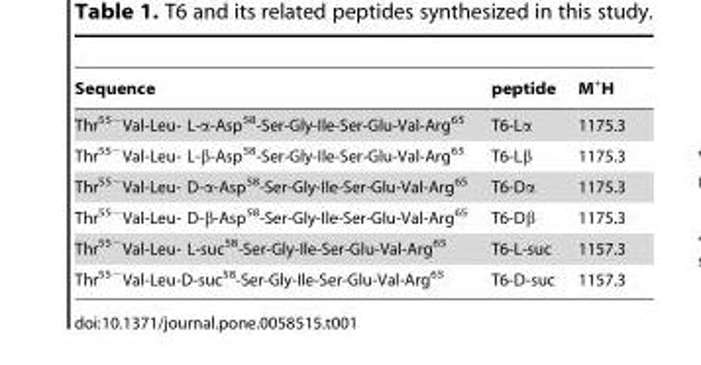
<table><thead><tr><td>Sequence</td><td>peptide</td><td>M<sup>+</sup>H</td></tr></thead><tbody><tr><td>Thr<sup>55−</sup>Val-Leu- L-α-Asp<sup>58</sup>-Ser-Gly-Ile-Ser-Glu-Val-Arg<sup>65</sup></td><td>T6-Lα</td><td>1175.3</td></tr><tr><td>Thr<sup>55−</sup>Val-Leu- L-β-Asp<sup>58</sup>-Ser-Gly-Ile-Ser-Glu-Val-Arg<sup>65</sup></td><td>T6-Lβ</td><td>1175.3</td></tr><tr><td>Thr<sup>55−</sup>Val-Leu- D-α-Asp<sup>58</sup>-Ser-Gly-Ile-Ser-Glu-Val-Arg<sup>65</sup></td><td>T6-Dα</td><td>1175.3</td></tr><tr><td>Thr<sup>55−</sup>Val-Leu- D-β-Asp<sup>58</sup>-Ser-Gly-Ile-Ser-Glu-Val-Arg<sup>65</sup></td><td>T6-Dβ</td><td>1175.3</td></tr><tr><td>Thr<sup>55−</sup>Val-Leu- L-suc<sup>58</sup>-Ser-Gly-Ile-Ser-Glu-Val-Arg<sup>65</sup></td><td>T6-L-suc</td><td>1157.3</td></tr><tr><td>Thr<sup>55−</sup>Val-Leu-D-suc<sup>58</sup>-Ser-Gly-Ile-Ser-Glu-Val-Arg<sup>65</sup></td><td>T6-D-suc</td><td>1157.3</td></tr></tbody></table>